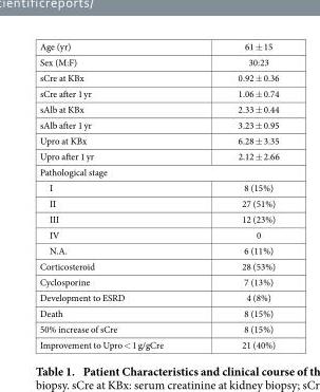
<table><tbody><tr><td>Age (yr)</td><td>61 ± 15</td></tr><tr><td>Sex (M:F)</td><td>30:23</td></tr><tr><td>sCre at KBx</td><td>0.92 ± 0.36</td></tr><tr><td>sCre after 1 yr</td><td>1.06 ± 0.74</td></tr><tr><td>sAlb at KBx</td><td>2.33 ± 0.44</td></tr><tr><td>sAlb after 1 yr</td><td>3.23 ± 0.95</td></tr><tr><td>Upro at KBx</td><td>6.28 ± 3.35</td></tr><tr><td>Upro after 1 yr</td><td>2.12 ± 2.66</td></tr><tr><td colspan="2">Pathological stage</td></tr><tr><td>I</td><td>8 (15%)</td></tr><tr><td>II</td><td>27 (51%)</td></tr><tr><td>III</td><td>12 (23%)</td></tr><tr><td>IV</td><td>0</td></tr><tr><td>N.A.</td><td>6 (11%)</td></tr><tr><td>Corticosteroid</td><td>28 (53%)</td></tr><tr><td>Cyclosporine</td><td>7 (13%)</td></tr><tr><td>Development to ESRD</td><td>4 (8%)</td></tr><tr><td>Death</td><td>8 (15%)</td></tr><tr><td>50% increase of sCre</td><td>8 (15%)</td></tr><tr><td>Improvement to Upro &lt; 1 g/gCre</td><td>21 (40%)</td></tr></tbody></table>